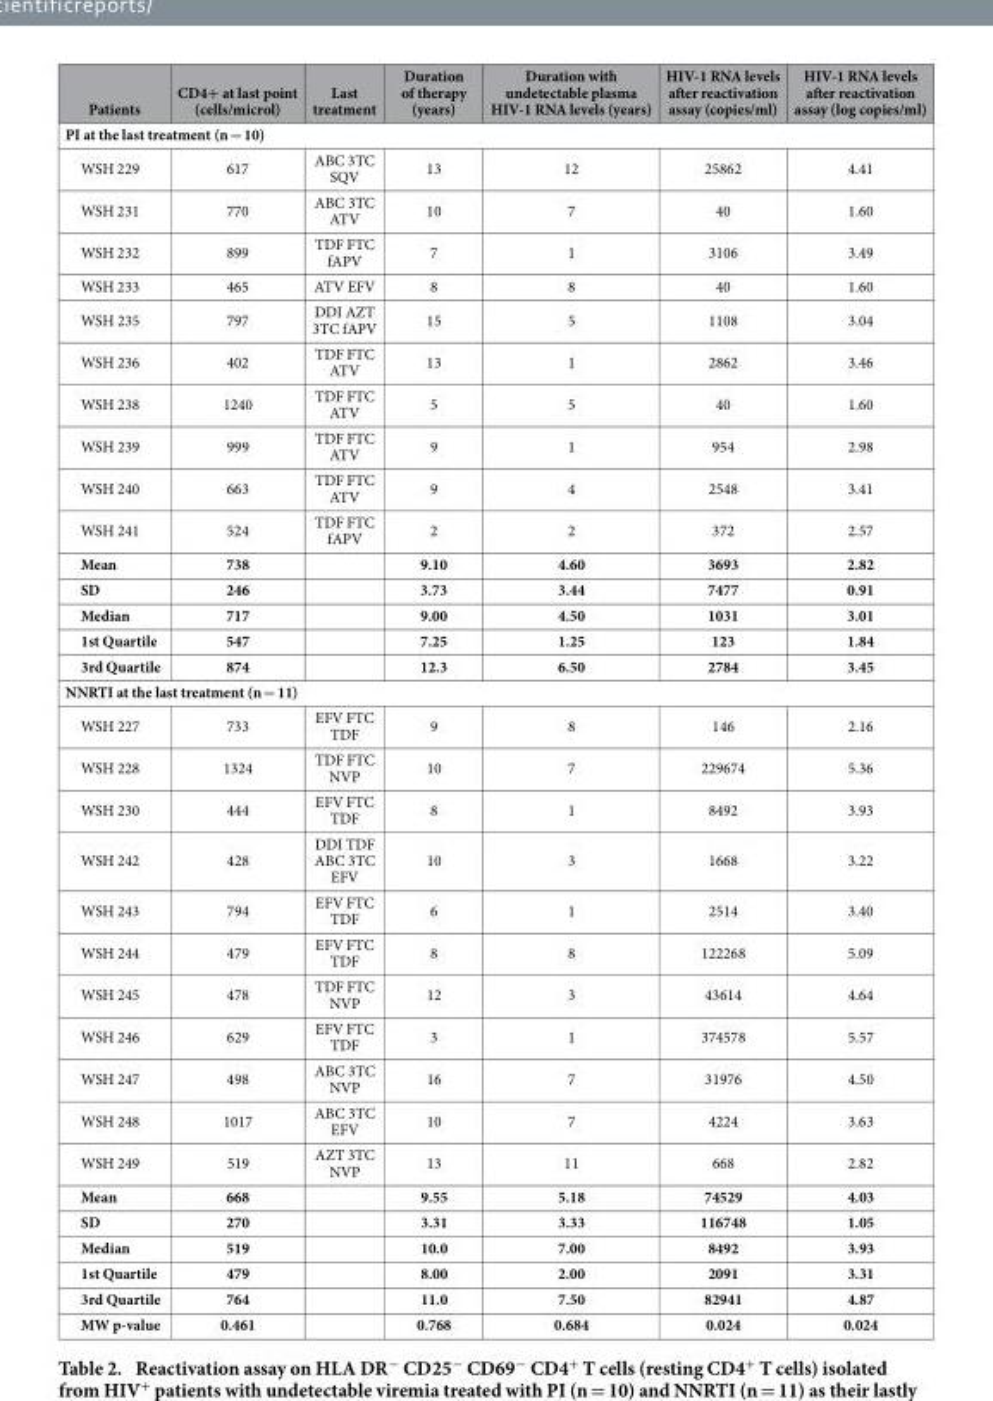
<table><thead><tr><td>Patients</td><td>CD4+ at last point (cells/microl)</td><td>Last treatment</td><td>Duration of therapy (years)</td><td>Duration with undetectable plasma HIV-1 RNA levels (years)</td><td>HIV-1 RNA levels after reactivation assay (copies/ml)</td><td>HIV-1 RNA levels after reactivation assay (log copies/ml)</td></tr></thead><tbody><tr><td colspan="7">PI at the last treatment (n = 10)</td></tr><tr><td>WSH 229</td><td>617</td><td>ABC 3TC SQV</td><td>13</td><td>12</td><td>25862</td><td>4.41</td></tr><tr><td>WSH 231</td><td>770</td><td>ABC 3TC ATV</td><td>10</td><td>7</td><td>40</td><td>1.60</td></tr><tr><td>WSH 232</td><td>899</td><td>TDF FTC fAPV</td><td>7</td><td>1</td><td>3106</td><td>3.49</td></tr><tr><td>WSH 233</td><td>465</td><td>ATV EFV</td><td>8</td><td>8</td><td>40</td><td>1.60</td></tr><tr><td>WSH 235</td><td>797</td><td>DDI AZT 3TC fAPV</td><td>15</td><td>5</td><td>1108</td><td>3.04</td></tr><tr><td>WSH 236</td><td>402</td><td>TDF FTC ATV</td><td>13</td><td>1</td><td>2862</td><td>3.46</td></tr><tr><td>WSH 238</td><td>1240</td><td>TDF FTC ATV</td><td>5</td><td>5</td><td>40</td><td>1.60</td></tr><tr><td>WSH 239</td><td>999</td><td>TDF FTC ATV</td><td>9</td><td>1</td><td>954</td><td>2.98</td></tr><tr><td>WSH 240</td><td>663</td><td>TDF FTC ATV</td><td>9</td><td>4</td><td>2548</td><td>3.41</td></tr><tr><td>WSH 241</td><td>524</td><td>TDF FTC fAPV</td><td>2</td><td>2</td><td>372</td><td>2.57</td></tr><tr><td>Mean</td><td>738</td><td></td><td>9.10</td><td>4.60</td><td>3693</td><td>2.82</td></tr><tr><td>SD</td><td>246</td><td></td><td>3.73</td><td>3.44</td><td>7477</td><td>0.91</td></tr><tr><td>Median</td><td>717</td><td></td><td>9.00</td><td>4.50</td><td>1031</td><td>3.01</td></tr><tr><td>1st Quartile</td><td>547</td><td></td><td>7.25</td><td>1.25</td><td>123</td><td>1.84</td></tr><tr><td>3rd Quartile</td><td>874</td><td></td><td>12.3</td><td>6.50</td><td>2784</td><td>3.45</td></tr><tr><td colspan="7">NNRTI at the last treatment (n = 11)</td></tr><tr><td>WSH 227</td><td>733</td><td>EFV FTC TDF</td><td>9</td><td>8</td><td>146</td><td>2.16</td></tr><tr><td>WSH 228</td><td>1324</td><td>TDF FTC NVP</td><td>10</td><td>7</td><td>229674</td><td>5.36</td></tr><tr><td>WSH 230</td><td>444</td><td>EFV FTC TDF</td><td>8</td><td>1</td><td>8492</td><td>3.93</td></tr><tr><td>WSH 242</td><td>428</td><td>DDI TDF ABC 3TC EFV</td><td>10</td><td>3</td><td>1668</td><td>3.22</td></tr><tr><td>WSH 243</td><td>794</td><td>EFV FTC TDF</td><td>6</td><td>1</td><td>2514</td><td>3.40</td></tr><tr><td>WSH 244</td><td>479</td><td>EFV FTC TDF</td><td>8</td><td>8</td><td>122268</td><td>5.09</td></tr><tr><td>WSH 245</td><td>478</td><td>TDF FTC NVP</td><td>12</td><td>3</td><td>43614</td><td>4.64</td></tr><tr><td>WSH 246</td><td>629</td><td>EFV FTC TDF</td><td>3</td><td>1</td><td>374578</td><td>5.57</td></tr><tr><td>WSH 247</td><td>498</td><td>ABC 3TC NVP</td><td>16</td><td>7</td><td>31976</td><td>4.50</td></tr><tr><td>WSH 248</td><td>1017</td><td>ABC 3TC EFV</td><td>10</td><td>7</td><td>4224</td><td>3.63</td></tr><tr><td>WSH 249</td><td>519</td><td>AZT 3TC NVP</td><td>13</td><td>11</td><td>668</td><td>2.82</td></tr><tr><td>Mean</td><td>668</td><td></td><td>9.55</td><td>5.18</td><td>74529</td><td>4.03</td></tr><tr><td>SD</td><td>270</td><td></td><td>3.31</td><td>3.33</td><td>116748</td><td>1.05</td></tr><tr><td>Median</td><td>519</td><td></td><td>10.0</td><td>7.00</td><td>8492</td><td>3.93</td></tr><tr><td>1st Quartile</td><td>479</td><td></td><td>8.00</td><td>2.00</td><td>2091</td><td>3.31</td></tr><tr><td>3rd Quartile</td><td>764</td><td></td><td>11.0</td><td>7.50</td><td>82941</td><td>4.87</td></tr><tr><td>MW p-value</td><td>0.461</td><td></td><td>0.768</td><td>0.684</td><td>0.024</td><td>0.024</td></tr></tbody></table>